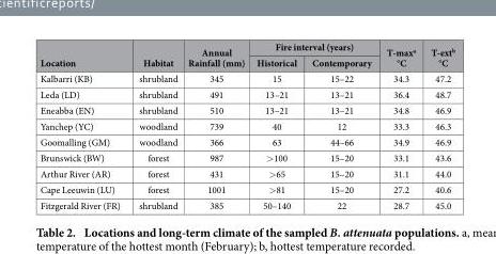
<table><thead><tr><td rowspan="2">Location</td><td rowspan="2">Habitat</td><td rowspan="2">Annual Rainfall (mm)</td><td colspan="2">Fire interval (years)</td><td rowspan="2">T-max<sup>a</sup> °C</td><td rowspan="2">T-ext<sup>b</sup> °C</td></tr><tr><td>Historical</td><td>Contemporary</td></tr></thead><tbody><tr><td>Kalbarri (KB)</td><td>shrubland</td><td>345</td><td>15</td><td>15–22</td><td>34.3</td><td>47.2</td></tr><tr><td>Leda (LD)</td><td>shrubland</td><td>491</td><td>13–21</td><td>13–21</td><td>36.4</td><td>48.7</td></tr><tr><td>Eneabba (EN)</td><td>shrubland</td><td>510</td><td>13–21</td><td>13–21</td><td>34.8</td><td>46.9</td></tr><tr><td>Yanchep (YC)</td><td>woodland</td><td>739</td><td>40</td><td>12</td><td>33.3</td><td>46.3</td></tr><tr><td>Goomalling (GM)</td><td>woodland</td><td>366</td><td>63</td><td>44–66</td><td>34.9</td><td>46.9</td></tr><tr><td>Brunswick (BW)</td><td>forest</td><td>987</td><td>&gt; 100</td><td>15–20</td><td>33.1</td><td>43.6</td></tr><tr><td>Arthur River (AR)</td><td>forest</td><td>431</td><td>&gt; 65</td><td>15–20</td><td>31.1</td><td>44.0</td></tr><tr><td>Cape Leeuwin (LU)</td><td>forest</td><td>1001</td><td>&gt; 81</td><td>15–20</td><td>27.2</td><td>40.6</td></tr><tr><td>Fitzgerald River (FR)</td><td>shrubland</td><td>385</td><td>50–140</td><td>22</td><td>28.7</td><td>45.0</td></tr></tbody></table>